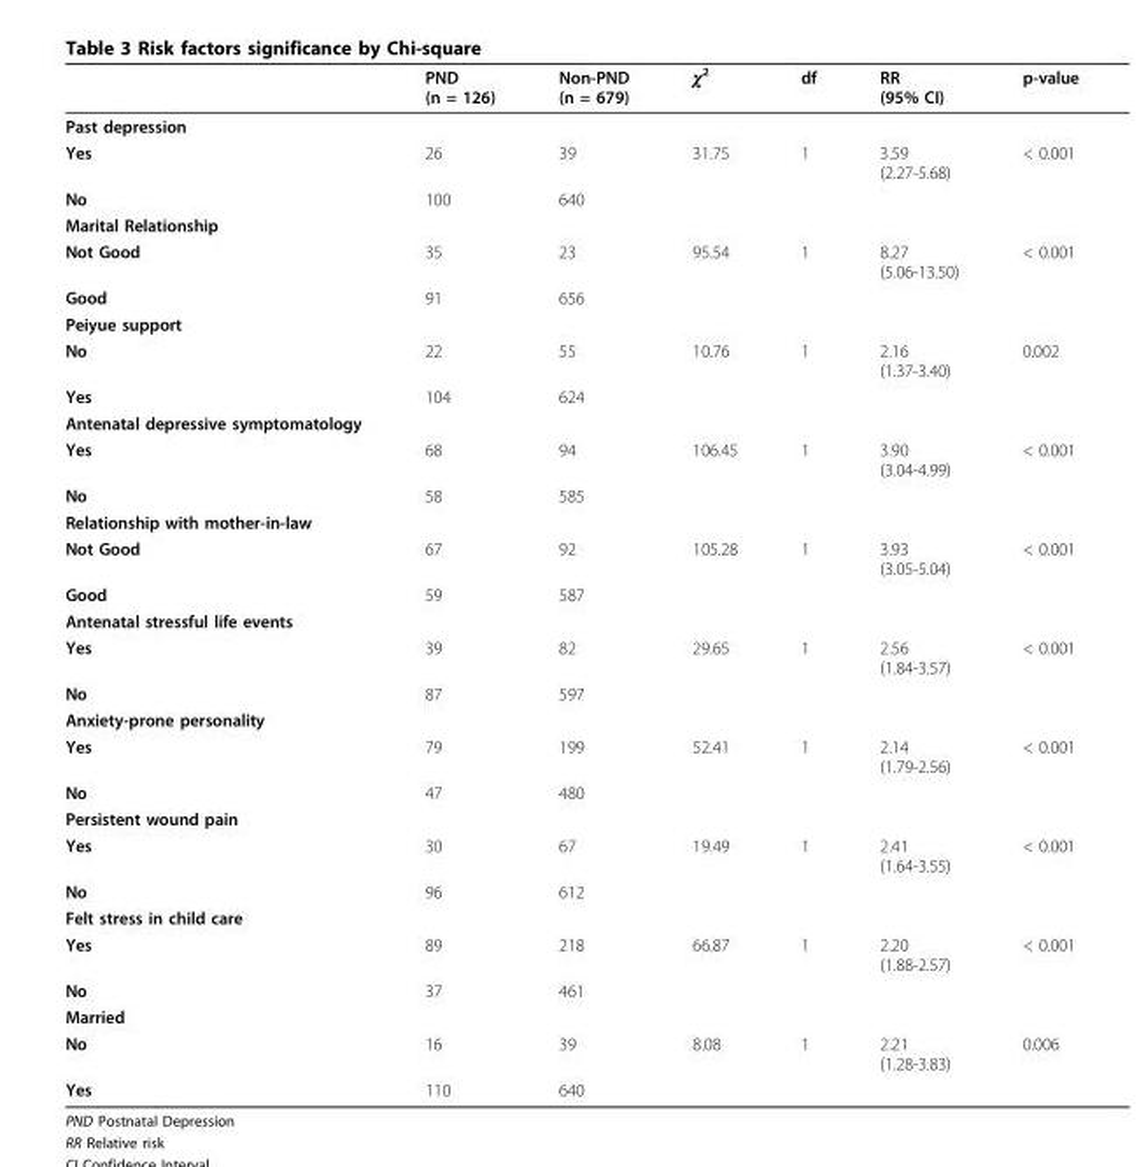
<table><thead><tr><td></td><td>PND (n = 126)</td><td>Non-PND (n = 679)</td><td>χ<sup>2</sup></td><td>df</td><td>RR (95% CI)</td><td>p-value</td></tr></thead><tbody><tr><td colspan="7">Past depression</td></tr><tr><td>Yes</td><td>26</td><td>39</td><td>31.75</td><td>1</td><td>3.59 (2.27-5.68)</td><td>&lt; 0.001</td></tr><tr><td>No</td><td>100</td><td>640</td><td></td><td></td><td></td><td></td></tr><tr><td colspan="7">Marital Relationship</td></tr><tr><td>Not Good</td><td>35</td><td>23</td><td>95.54</td><td>1</td><td>8.27 (5.06-13.50)</td><td>&lt; 0.001</td></tr><tr><td>Good</td><td>91</td><td>656</td><td></td><td></td><td></td><td></td></tr><tr><td colspan="7">Peiyue support</td></tr><tr><td>No</td><td>22</td><td>55</td><td>10.76</td><td>1</td><td>2.16 (1.37-3.40)</td><td>0.002</td></tr><tr><td>Yes</td><td>104</td><td>624</td><td></td><td></td><td></td><td></td></tr><tr><td colspan="7">Antenatal depressive symptomatology</td></tr><tr><td>Yes</td><td>68</td><td>94</td><td>106.45</td><td>1</td><td>3.90 (3.04-4.99)</td><td>&lt; 0.001</td></tr><tr><td>No</td><td>58</td><td>585</td><td></td><td></td><td></td><td></td></tr><tr><td colspan="7">Relationship with mother-in-law</td></tr><tr><td>Not Good</td><td>67</td><td>92</td><td>105.28</td><td>1</td><td>3.93 (3.05-5.04)</td><td>&lt; 0.001</td></tr><tr><td>Good</td><td>59</td><td>587</td><td></td><td></td><td></td><td></td></tr><tr><td colspan="7">Antenatal stressful life events</td></tr><tr><td>Yes</td><td>39</td><td>82</td><td>29.65</td><td>1</td><td>2.56 (1.84-3.57)</td><td>&lt; 0.001</td></tr><tr><td>No</td><td>87</td><td>597</td><td></td><td></td><td></td><td></td></tr><tr><td colspan="7">Anxiety-prone personality</td></tr><tr><td>Yes</td><td>79</td><td>199</td><td>52.41</td><td>1</td><td>2.14 (1.79-2.56)</td><td>&lt; 0.001</td></tr><tr><td>No</td><td>47</td><td>480</td><td></td><td></td><td></td><td></td></tr><tr><td colspan="7">Persistent wound pain</td></tr><tr><td>Yes</td><td>30</td><td>67</td><td>19.49</td><td>1</td><td>2.41 (1.64-3.55)</td><td>&lt; 0.001</td></tr><tr><td>No</td><td>96</td><td>612</td><td></td><td></td><td></td><td></td></tr><tr><td colspan="7">Felt stress in child care</td></tr><tr><td>Yes</td><td>89</td><td>218</td><td>66.87</td><td>1</td><td>2.20 (1.88-2.57)</td><td>&lt; 0.001</td></tr><tr><td>No</td><td>37</td><td>461</td><td></td><td></td><td></td><td></td></tr><tr><td colspan="7">Married</td></tr><tr><td>No</td><td>16</td><td>39</td><td>8.08</td><td>1</td><td>2.21 (1.28-3.83)</td><td>0.006</td></tr><tr><td>Yes</td><td>110</td><td>640</td><td></td><td></td><td></td><td></td></tr></tbody></table>